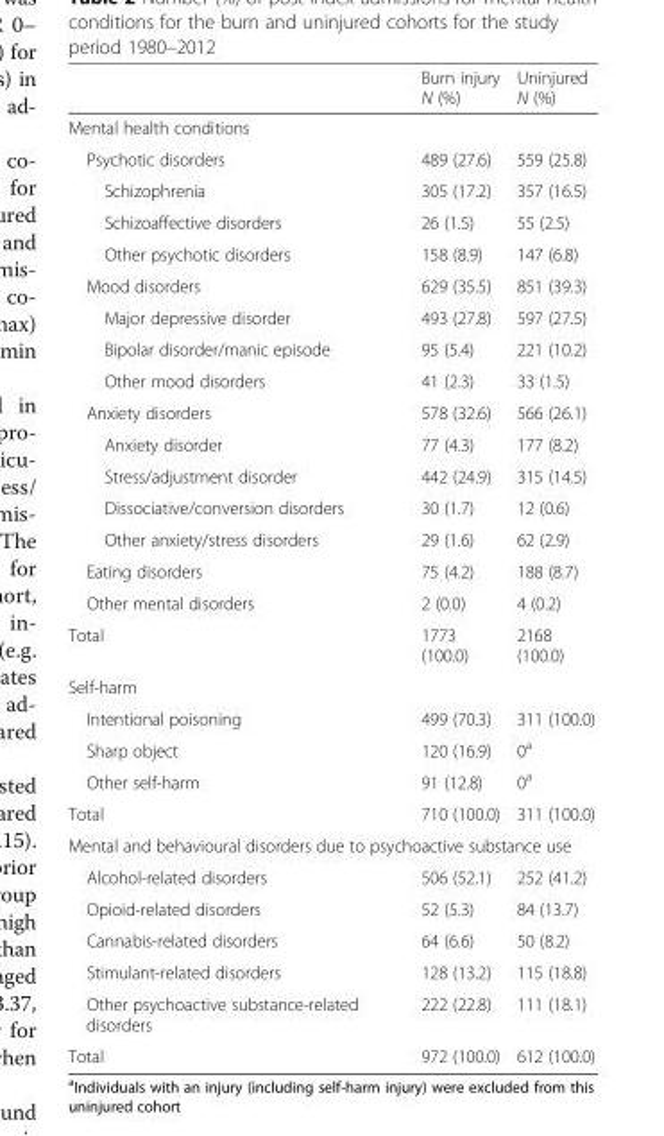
<table><thead><tr><td></td><td>Burn injury N (%)</td><td>Uninjured N (%)</td></tr></thead><tbody><tr><td colspan="3">Mental health conditions</td></tr><tr><td>Psychotic disorders</td><td>489 (27.6)</td><td>559 (25.8)</td></tr><tr><td>Schizophrenia</td><td>305 (17.2)</td><td>357 (16.5)</td></tr><tr><td>Schizoaffective disorders</td><td>26 (1.5)</td><td>55 (2.5)</td></tr><tr><td>Other psychotic disorders</td><td>158 (8.9)</td><td>147 (6.8)</td></tr><tr><td>Mood disorders</td><td>629 (35.5)</td><td>851 (39.3)</td></tr><tr><td>Major depressive disorder</td><td>493 (27.8)</td><td>597 (27.5)</td></tr><tr><td>Bipolar disorder/manic episode</td><td>95 (5.4)</td><td>221 (10.2)</td></tr><tr><td>Other mood disorders</td><td>41 (2.3)</td><td>33 (1.5)</td></tr><tr><td>Anxiety disorders</td><td>578 (32.6)</td><td>566 (26.1)</td></tr><tr><td>Anxiety disorder</td><td>77 (4.3)</td><td>177 (8.2)</td></tr><tr><td>Stress/adjustment disorder</td><td>442 (24.9)</td><td>315 (14.5)</td></tr><tr><td>Dissociative/conversion disorders</td><td>30 (1.7)</td><td>12 (0.6)</td></tr><tr><td>Other anxiety/stress disorders</td><td>29 (1.6)</td><td>62 (2.9)</td></tr><tr><td>Eating disorders</td><td>75 (4.2)</td><td>188 (8.7)</td></tr><tr><td>Other mental disorders</td><td>2 (0.0)</td><td>4 (0.2)</td></tr><tr><td>Total</td><td>1773 (100.0)</td><td>2168 (100.0)</td></tr><tr><td colspan="3">Self-harm</td></tr><tr><td>Intentional poisoning</td><td>499 (70.3)</td><td>311 (100.0)</td></tr><tr><td>Sharp object</td><td>120 (16.9)</td><td>0<sup>a</sup></td></tr><tr><td>Other self-harm</td><td>91 (12.8)</td><td>0<sup>a</sup></td></tr><tr><td>Total</td><td>710 (100.0)</td><td>311 (100.0)</td></tr><tr><td colspan="3">Mental and behavioural disorders due to psychoactive substance use</td></tr><tr><td>Alcohol-related disorders</td><td>506 (52.1)</td><td>252 (41.2)</td></tr><tr><td>Opioid-related disorders</td><td>52 (5.3)</td><td>84 (13.7)</td></tr><tr><td>Cannabis-related disorders</td><td>64 (6.6)</td><td>50 (8.2)</td></tr><tr><td>Stimulant-related disorders</td><td>128 (13.2)</td><td>115 (18.8)</td></tr><tr><td>Other psychoactive substance-related disorders</td><td>222 (22.8)</td><td>111 (18.1)</td></tr><tr><td>Total</td><td>972 (100.0)</td><td>612 (100.0)</td></tr></tbody></table>